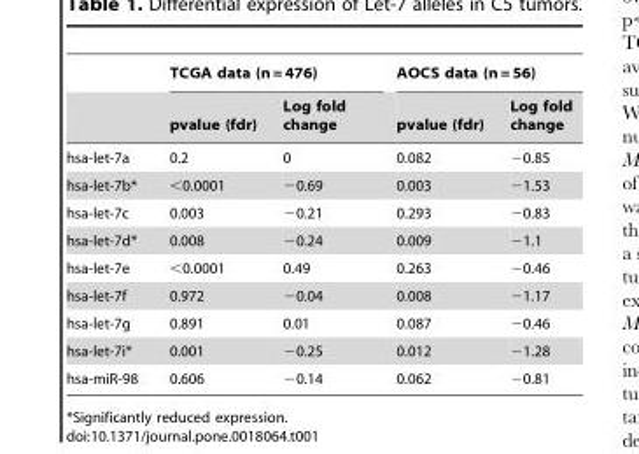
<table><thead><tr><td rowspan="2"></td><td colspan="2">TCGA data (n = 476)</td><td colspan="2">AOCS data (n = 56)</td></tr><tr><td>pvalue (fdr)</td><td>Log fold change</td><td>pvalue (fdr)</td><td>Log fold change</td></tr></thead><tbody><tr><td>hsa-let-7a</td><td>0.2</td><td>0</td><td>0.082</td><td>−0.85</td></tr><tr><td>hsa-let-7b*</td><td>&lt;0.0001</td><td>−0.69</td><td>0.003</td><td>−1.53</td></tr><tr><td>hsa-let-7c</td><td>0.003</td><td>−0.21</td><td>0.293</td><td>−0.83</td></tr><tr><td>hsa-let-7d*</td><td>0.008</td><td>−0.24</td><td>0.009</td><td>−1.1</td></tr><tr><td>hsa-let-7e</td><td>&lt;0.0001</td><td>0.49</td><td>0.263</td><td>−0.46</td></tr><tr><td>hsa-let-7f</td><td>0.972</td><td>−0.04</td><td>0.008</td><td>−1.17</td></tr><tr><td>hsa-let-7g</td><td>0.891</td><td>0.01</td><td>0.087</td><td>−0.46</td></tr><tr><td>hsa-let-7i*</td><td>0.001</td><td>−0.25</td><td>0.012</td><td>−1.28</td></tr><tr><td>hsa-miR-98</td><td>0.606</td><td>−0.14</td><td>0.062</td><td>−0.81</td></tr></tbody></table>